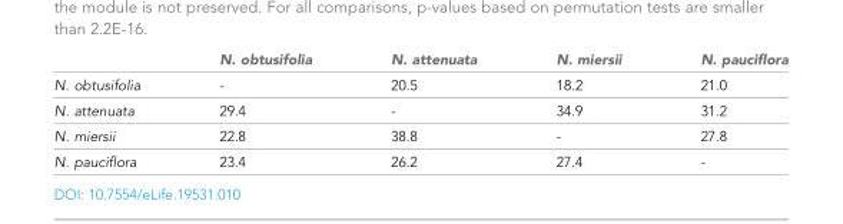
<table><thead><tr><td></td><td>N. obtusifolia</td><td>N. attenuata</td><td>N. miersii</td><td>N. pauciflora</td></tr></thead><tbody><tr><td>N. obtusifolia</td><td>-</td><td>20.5</td><td>18.2</td><td>21.0</td></tr><tr><td>N. attenuata</td><td>29.4</td><td>-</td><td>34.9</td><td>31.2</td></tr><tr><td>N. miersii</td><td>22.8</td><td>38.8</td><td>-</td><td>27.8</td></tr><tr><td>N. pauciflora</td><td>23.4</td><td>26.2</td><td>27.4</td><td>-</td></tr></tbody></table>